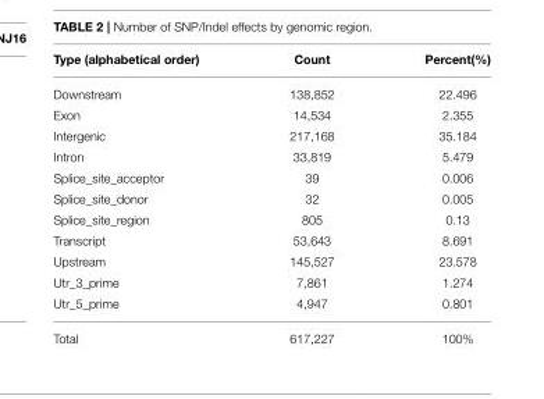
<table><thead><tr><td>Type (alphabetical order)</td><td>Count</td><td>Percent(%)</td></tr></thead><tbody><tr><td>Downstream</td><td>138,852</td><td>22.496</td></tr><tr><td>Exon</td><td>14,534</td><td>2.355</td></tr><tr><td>Intergenic</td><td>217,168</td><td>35.184</td></tr><tr><td>Intron</td><td>33,819</td><td>5.479</td></tr><tr><td>Splice_site_acceptor</td><td>39</td><td>0.006</td></tr><tr><td>Splice_site_donor</td><td>32</td><td>0.005</td></tr><tr><td>Splice_site_region</td><td>805</td><td>0.13</td></tr><tr><td>Transcript</td><td>53,643</td><td>8.691</td></tr><tr><td>Upstream</td><td>145,527</td><td>23.578</td></tr><tr><td>Utr_3_prime</td><td>7,861</td><td>1.274</td></tr><tr><td>Utr_5_prime</td><td>4,947</td><td>0.801</td></tr><tr><td>Total</td><td>617,227</td><td>100%</td></tr></tbody></table>